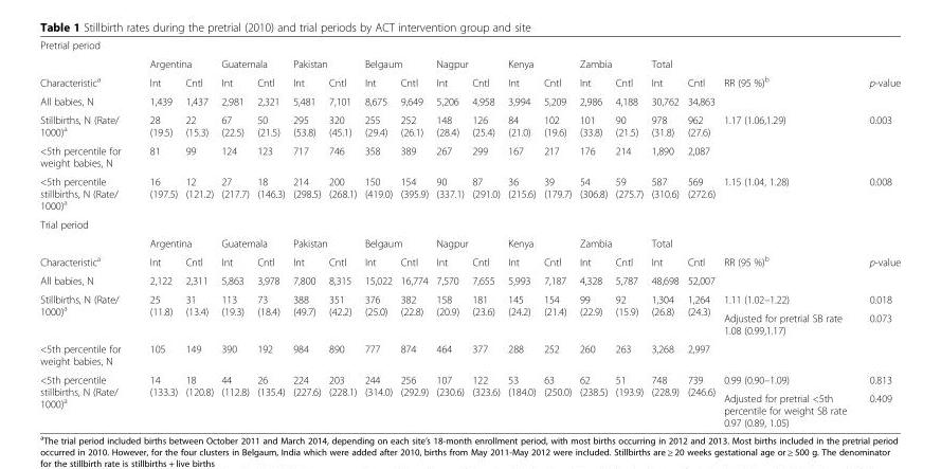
<table><tbody><tr><td colspan="19">Pretrial period</td></tr><tr><td></td><td colspan="2">Argentina</td><td colspan="2">Guatemala</td><td colspan="2">Pakistan</td><td colspan="2">Belgaum</td><td colspan="2">Nagpur</td><td colspan="2">Kenya</td><td colspan="2">Zambia</td><td colspan="4">Total</td></tr><tr><td>Characteristic<sup>a</sup></td><td>Int</td><td>Cntl</td><td>Int</td><td>Cntl</td><td>Int</td><td>Cntl</td><td>Int</td><td>Cntl</td><td>Int</td><td>Cntl</td><td>Int</td><td>Cntl</td><td>Int</td><td>Cntl</td><td>Int</td><td>Cntl</td><td>RR (95 %)<sup>b</sup></td><td>p-value</td></tr><tr><td>All babies, N</td><td>1,439</td><td>1,437</td><td>2,981</td><td>2,321</td><td>5,481</td><td>7,101</td><td>8,675</td><td>9,649</td><td>5,206</td><td>4,958</td><td>3,994</td><td>5,209</td><td>2,986</td><td>4,188</td><td>30,762</td><td>34,863</td><td></td><td></td></tr><tr><td>Stillbirths, N (Rate/ 1000)<sup>a</sup></td><td>28 (19.5)</td><td>22 (15.3)</td><td>67 (22.5)</td><td>50 (21.5)</td><td>295 (53.8)</td><td>320 (45.1)</td><td>255 (29.4)</td><td>252 (26.1)</td><td>148 (28.4)</td><td>126 (25.4)</td><td>84 (21.0)</td><td>102 (19.6)</td><td>101 (33.8)</td><td>90 (21.5)</td><td>978 (31.8)</td><td>962 (27.6)</td><td>1.17 (1.06,1.29)</td><td>0.003</td></tr><tr><td>&lt;5th percentile for weight babies, N</td><td>81</td><td>99</td><td>124</td><td>123</td><td>717</td><td>746</td><td>358</td><td>389</td><td>267</td><td>299</td><td>167</td><td>217</td><td>176</td><td>214</td><td>1,890</td><td>2,087</td><td></td><td></td></tr><tr><td>&lt;5th percentile stillbirths, N (Rate/ 1000)<sup>a</sup></td><td>16 (197.5)</td><td>12 (121.2)</td><td>27 (217.7)</td><td>18 (146.3)</td><td>214 (298.5)</td><td>200 (268.1)</td><td>150 (419.0)</td><td>154 (395.9)</td><td>90 (337.1)</td><td>87 (291.0)</td><td>36 (215.6)</td><td>39 (179.7)</td><td>54 (306.8)</td><td>59 (275.7)</td><td>587 (310.6)</td><td>569 (272.6)</td><td>1.15 (1.04, 1.28)</td><td>0.008</td></tr><tr><td colspan="19">Trial period</td></tr><tr><td></td><td colspan="2">Argentina</td><td colspan="2">Guatemala</td><td colspan="2">Pakistan</td><td colspan="2">Belgaum</td><td colspan="2">Nagpur</td><td colspan="2">Kenya</td><td colspan="2">Zambia</td><td colspan="4">Total</td></tr><tr><td>Characteristic<sup>a</sup></td><td>Int</td><td>Cntl</td><td>Int</td><td>Cntl</td><td>Int</td><td>Cntl</td><td>Int</td><td>Cntl</td><td>Int</td><td>Cntl</td><td>Int</td><td>Cntl</td><td>Int</td><td>Cntl</td><td>Int</td><td>Cntl</td><td>RR (95 %)<sup>b</sup></td><td>p-value</td></tr><tr><td>All babies, N</td><td>2,122</td><td>2,311</td><td>5,863</td><td>3,978</td><td>7,800</td><td>8,315</td><td>15,022</td><td>16,774</td><td>7,570</td><td>7,655</td><td>5,993</td><td>7,187</td><td>4,328</td><td>5,787</td><td>48,698</td><td>52,007</td><td></td><td></td></tr><tr><td rowspan="2">Stillbirths, N (Rate/ 1000)<sup>a</sup></td><td rowspan="2">25 (11.8)</td><td rowspan="2">31 (13.4)</td><td rowspan="2">113 (19.3)</td><td rowspan="2">73 (18.4)</td><td rowspan="2">388 (49.7)</td><td rowspan="2">351 (42.2)</td><td rowspan="2">376 (25.0)</td><td rowspan="2">382 (22.8)</td><td rowspan="2">158 (20.9)</td><td rowspan="2">181 (23.6)</td><td rowspan="2">145 (24.2)</td><td rowspan="2">154 (21.4)</td><td rowspan="2">99 (22.9)</td><td rowspan="2">92 (15.9)</td><td rowspan="2">1,304 (26.8)</td><td rowspan="2">1,264 (24.3)</td><td>1.11 (1.02–1.22)</td><td>0.018</td></tr><tr><td>Adjusted for pretrial SB rate 1.08 (0.99,1.17)</td><td>0.073</td></tr><tr><td>&lt;5th percentile for weight babies, N</td><td>105</td><td>149</td><td>390</td><td>192</td><td>984</td><td>890</td><td>777</td><td>874</td><td>464</td><td>377</td><td>288</td><td>252</td><td>260</td><td>263</td><td>3,268</td><td>2,997</td><td></td><td></td></tr><tr><td rowspan="2">&lt;5th percentile stillbirths, N (Rate/ 1000)<sup>a</sup></td><td rowspan="2">14 (133.3)</td><td rowspan="2">18 (120.8)</td><td rowspan="2">44 (112.8)</td><td rowspan="2">26 (135.4)</td><td rowspan="2">224 (227.6)</td><td rowspan="2">203 (228.1)</td><td rowspan="2">244 (314.0)</td><td rowspan="2">256 (292.9)</td><td rowspan="2">107 (230.6)</td><td rowspan="2">122 (323.6)</td><td rowspan="2">53 (184.0)</td><td rowspan="2">63 (250.0)</td><td rowspan="2">62 (238.5)</td><td rowspan="2">51 (193.9)</td><td rowspan="2">748 (228.9)</td><td rowspan="2">739 (246.6)</td><td>0.99 (0.90–1.09)</td><td>0.813</td></tr><tr><td>Adjusted for pretrial &lt;5th percentile for weight SB rate 0.97 (0.89, 1.05)</td><td>0.409</td></tr></tbody></table>